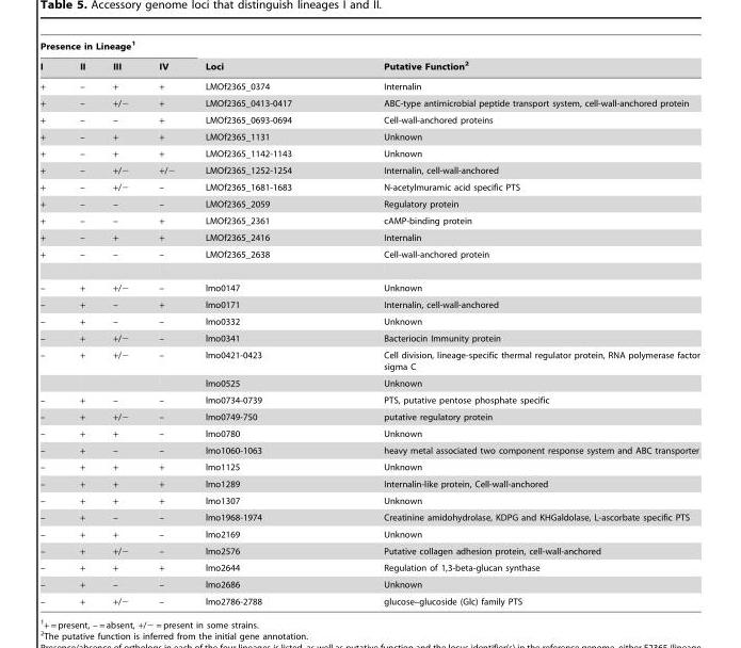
<table><thead><tr><td colspan="4">Presence in Lineage<sup>1</sup></td><td rowspan="2">Loci</td><td rowspan="2">Putative Function<sup>2</sup></td></tr><tr><td>I</td><td>II</td><td>III</td><td>IV</td></tr></thead><tbody><tr><td>+</td><td>–</td><td>+</td><td>+</td><td>LMOf2365_0374</td><td>Internalin</td></tr><tr><td>+</td><td>–</td><td>+/−</td><td>+</td><td>LMOf2365_0413-0417</td><td>ABC-type antimicrobial peptide transport system, cell-wall-anchored protein</td></tr><tr><td>+</td><td>–</td><td>–</td><td>+</td><td>LMOf2365_0693-0694</td><td>Cell-wall-anchored proteins</td></tr><tr><td>+</td><td>–</td><td>+</td><td>+</td><td>LMOf2365_1131</td><td>Unknown</td></tr><tr><td>+</td><td>–</td><td>+</td><td>+</td><td>LMOf2365_1142-1143</td><td>Unknown</td></tr><tr><td>+</td><td>–</td><td>+/−</td><td>+/−</td><td>LMOf2365_1252-1254</td><td>Internalin, cell-wall-anchored</td></tr><tr><td>+</td><td>–</td><td>+/−</td><td>–</td><td>LMOf2365_1681-1683</td><td>N-acetylmuramic acid specific PTS</td></tr><tr><td>+</td><td>–</td><td>–</td><td>–</td><td>LMOf2365_2059</td><td>Regulatory protein</td></tr><tr><td>+</td><td>–</td><td>–</td><td>+</td><td>LMOf2365_2361</td><td>cAMP-binding protein</td></tr><tr><td>+</td><td>–</td><td>+</td><td>+</td><td>LMOf2365_2416</td><td>Internalin</td></tr><tr><td>+</td><td>–</td><td>–</td><td>–</td><td>LMOf2365_2638</td><td>Cell-wall-anchored protein</td></tr><tr><td>–</td><td>+</td><td>+/−</td><td>–</td><td>lmo0147</td><td>Unknown</td></tr><tr><td>–</td><td>+</td><td>–</td><td>+</td><td>lmo0171</td><td>Internalin, cell-wall-anchored</td></tr><tr><td>–</td><td>+</td><td>–</td><td>–</td><td>lmo0332</td><td>Unknown</td></tr><tr><td>–</td><td>+</td><td>+/−</td><td>–</td><td>lmo0341</td><td>Bacteriocin Immunity protein</td></tr><tr><td rowspan="2">–</td><td>+</td><td>+/−</td><td>–</td><td>lmo0421-0423</td><td>Cell division, lineage-specific thermal regulator protein, RNA polymerase factor sigma C</td></tr><tr><td></td><td></td><td></td><td>lmo0525</td><td>Unknown</td></tr><tr><td>–</td><td>+</td><td>–</td><td>–</td><td>lmo0734-0739</td><td>PTS, putative pentose phosphate specific</td></tr><tr><td>–</td><td>+</td><td>+/−</td><td>–</td><td>lmo0749-750</td><td>putative regulatory protein</td></tr><tr><td>–</td><td>+</td><td>+</td><td>–</td><td>lmo0780</td><td>Unknown</td></tr><tr><td>–</td><td>+</td><td>–</td><td>–</td><td>lmo1060-1063</td><td>heavy metal associated two component response system and ABC transporter</td></tr><tr><td>–</td><td>+</td><td>+</td><td>+</td><td>lmo1125</td><td>Unknown</td></tr><tr><td>–</td><td>+</td><td>+</td><td>+</td><td>lmo1289</td><td>Internalin-like protein, Cell-wall-anchored</td></tr><tr><td>–</td><td>+</td><td>+</td><td>+</td><td>lmo1307</td><td>Unknown</td></tr><tr><td>–</td><td>+</td><td>–</td><td>–</td><td>lmo1968-1974</td><td>Creatinine amidohydrolase, KDPG and KHGaldolase, L-ascorbate specific PTS</td></tr><tr><td>–</td><td>+</td><td>+</td><td>–</td><td>lmo2169</td><td>Unknown</td></tr><tr><td>–</td><td>+</td><td>+/−</td><td>–</td><td>lmo2576</td><td>Putative collagen adhesion protein, cell-wall-anchored</td></tr><tr><td>–</td><td>+</td><td>+</td><td>+</td><td>lmo2644</td><td>Regulation of 1,3-beta-glucan synthase</td></tr><tr><td>–</td><td>+</td><td>–</td><td>–</td><td>lmo2686</td><td>Unknown</td></tr><tr><td>–</td><td>+</td><td>+/−</td><td>–</td><td>lmo2786-2788</td><td>glucose–glucoside (Glc) family PTS</td></tr></tbody></table>